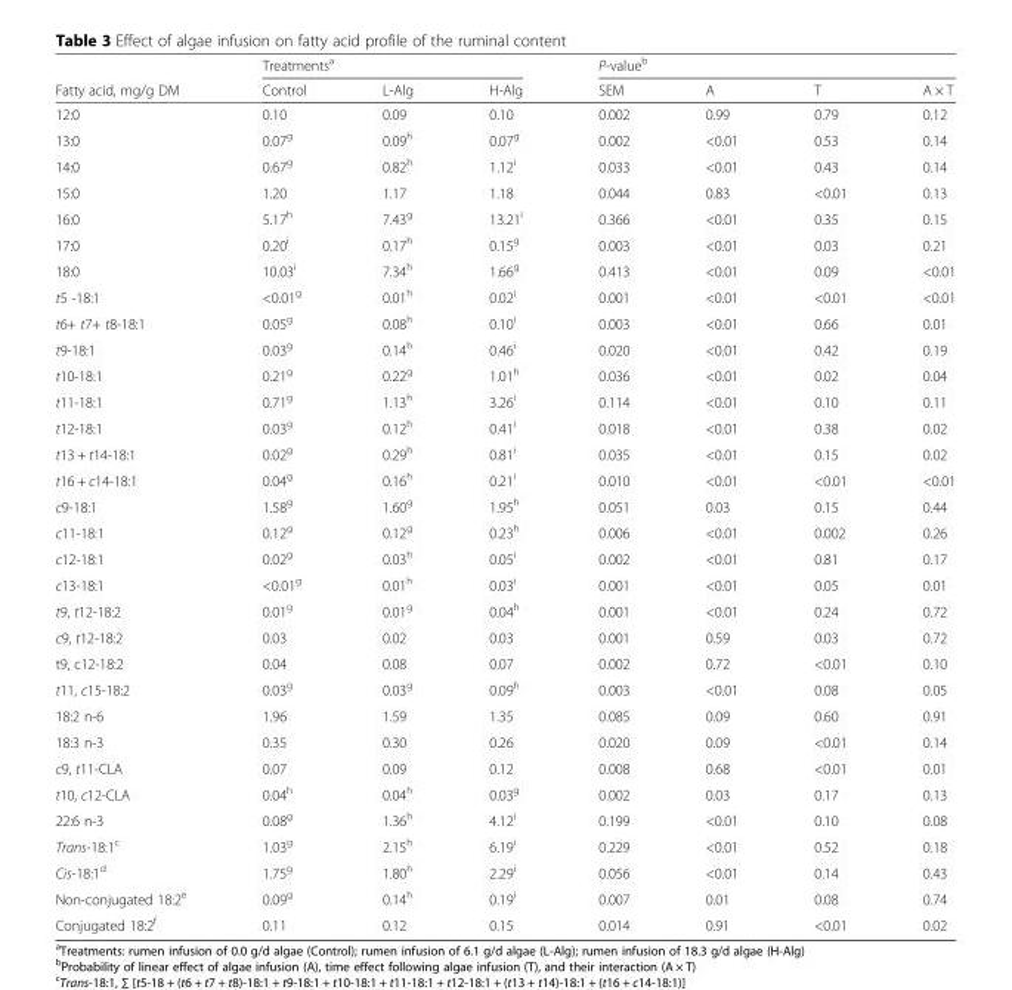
<table><thead><tr><td rowspan="2">Fatty acid, mg/g DM</td><td colspan="3">Treatments<sup>a</sup></td><td colspan="4">P-value<sup>b</sup></td></tr><tr><td>Control</td><td>L-Alg</td><td>H-Alg</td><td>SEM</td><td>A</td><td>T</td><td>A × T</td></tr></thead><tbody><tr><td>12:0</td><td>0.10</td><td>0.09</td><td>0.10</td><td>0.002</td><td>0.99</td><td>0.79</td><td>0.12</td></tr><tr><td>13:0</td><td>0.07<sup>g</sup></td><td>0.09<sup>h</sup></td><td>0.07<sup>g</sup></td><td>0.002</td><td>&lt;0.01</td><td>0.53</td><td>0.14</td></tr><tr><td>14:0</td><td>0.67<sup>g</sup></td><td>0.82<sup>h</sup></td><td>1.12<sup>i</sup></td><td>0.033</td><td>&lt;0.01</td><td>0.43</td><td>0.14</td></tr><tr><td>15:0</td><td>1.20</td><td>1.17</td><td>1.18</td><td>0.044</td><td>0.83</td><td>&lt;0.01</td><td>0.13</td></tr><tr><td>16:0</td><td>5.17<sup>h</sup></td><td>7.43<sup>g</sup></td><td>13.21<sup>i</sup></td><td>0.366</td><td>&lt;0.01</td><td>0.35</td><td>0.15</td></tr><tr><td>17:0</td><td>0.20<sup>i</sup></td><td>0.17<sup>h</sup></td><td>0.15<sup>g</sup></td><td>0.003</td><td>&lt;0.01</td><td>0.03</td><td>0.21</td></tr><tr><td>18:0</td><td>10.03<sup>i</sup></td><td>7.34<sup>h</sup></td><td>1.66<sup>g</sup></td><td>0.413</td><td>&lt;0.01</td><td>0.09</td><td>&lt;0.01</td></tr><tr><td>t5 -18:1</td><td>&lt;0.01<sup>g</sup></td><td>0.01<sup>h</sup></td><td>0.02<sup>i</sup></td><td>0.001</td><td>&lt;0.01</td><td>&lt;0.01</td><td>&lt;0.01</td></tr><tr><td>t6+ t7+ t8-18:1</td><td>0.05<sup>g</sup></td><td>0.08<sup>h</sup></td><td>0.10<sup>i</sup></td><td>0.003</td><td>&lt;0.01</td><td>0.66</td><td>0.01</td></tr><tr><td>t9-18:1</td><td>0.03<sup>g</sup></td><td>0.14<sup>h</sup></td><td>0.46<sup>i</sup></td><td>0.020</td><td>&lt;0.01</td><td>0.42</td><td>0.19</td></tr><tr><td>t10-18:1</td><td>0.21<sup>g</sup></td><td>0.22<sup>g</sup></td><td>1.01<sup>h</sup></td><td>0.036</td><td>&lt;0.01</td><td>0.02</td><td>0.04</td></tr><tr><td>t11-18:1</td><td>0.71<sup>g</sup></td><td>1.13<sup>h</sup></td><td>3.26<sup>i</sup></td><td>0.114</td><td>&lt;0.01</td><td>0.10</td><td>0.11</td></tr><tr><td>t12-18:1</td><td>0.03<sup>g</sup></td><td>0.12<sup>h</sup></td><td>0.41<sup>i</sup></td><td>0.018</td><td>&lt;0.01</td><td>0.38</td><td>0.02</td></tr><tr><td>t13 + t14-18:1</td><td>0.02<sup>g</sup></td><td>0.29<sup>h</sup></td><td>0.81<sup>i</sup></td><td>0.035</td><td>&lt;0.01</td><td>0.15</td><td>0.02</td></tr><tr><td>t16 + c14-18:1</td><td>0.04<sup>g</sup></td><td>0.16<sup>h</sup></td><td>0.21<sup>i</sup></td><td>0.010</td><td>&lt;0.01</td><td>&lt;0.01</td><td>&lt;0.01</td></tr><tr><td>c9-18:1</td><td>1.58<sup>g</sup></td><td>1.60<sup>g</sup></td><td>1.95<sup>h</sup></td><td>0.051</td><td>0.03</td><td>0.15</td><td>0.44</td></tr><tr><td>c11-18:1</td><td>0.12<sup>g</sup></td><td>0.12<sup>g</sup></td><td>0.23<sup>h</sup></td><td>0.006</td><td>&lt;0.01</td><td>0.002</td><td>0.26</td></tr><tr><td>c12-18:1</td><td>0.02<sup>g</sup></td><td>0.03<sup>h</sup></td><td>0.05<sup>i</sup></td><td>0.002</td><td>&lt;0.01</td><td>0.81</td><td>0.17</td></tr><tr><td>c13-18:1</td><td>&lt;0.01<sup>g</sup></td><td>0.01<sup>h</sup></td><td>0.03<sup>i</sup></td><td>0.001</td><td>&lt;0.01</td><td>0.05</td><td>0.01</td></tr><tr><td>t9, t12-18:2</td><td>0.01<sup>g</sup></td><td>0.01<sup>g</sup></td><td>0.04<sup>h</sup></td><td>0.001</td><td>&lt;0.01</td><td>0.24</td><td>0.72</td></tr><tr><td>c9, t12-18:2</td><td>0.03</td><td>0.02</td><td>0.03</td><td>0.001</td><td>0.59</td><td>0.03</td><td>0.72</td></tr><tr><td>t9, c12-18:2</td><td>0.04</td><td>0.08</td><td>0.07</td><td>0.002</td><td>0.72</td><td>&lt;0.01</td><td>0.10</td></tr><tr><td>t11, c15-18:2</td><td>0.03<sup>g</sup></td><td>0.03<sup>g</sup></td><td>0.09<sup>h</sup></td><td>0.003</td><td>&lt;0.01</td><td>0.08</td><td>0.05</td></tr><tr><td>18:2 n-6</td><td>1.96</td><td>1.59</td><td>1.35</td><td>0.085</td><td>0.09</td><td>0.60</td><td>0.91</td></tr><tr><td>18:3 n-3</td><td>0.35</td><td>0.30</td><td>0.26</td><td>0.020</td><td>0.09</td><td>&lt;0.01</td><td>0.14</td></tr><tr><td>c9, t11-CLA</td><td>0.07</td><td>0.09</td><td>0.12</td><td>0.008</td><td>0.68</td><td>&lt;0.01</td><td>0.01</td></tr><tr><td>t10, c12-CLA</td><td>0.04<sup>h</sup></td><td>0.04<sup>h</sup></td><td>0.03<sup>g</sup></td><td>0.002</td><td>0.03</td><td>0.17</td><td>0.13</td></tr><tr><td>22:6 n-3</td><td>0.08<sup>g</sup></td><td>1.36<sup>h</sup></td><td>4.12<sup>i</sup></td><td>0.199</td><td>&lt;0.01</td><td>0.10</td><td>0.08</td></tr><tr><td>Trans-18:1<sup>c</sup></td><td>1.03<sup>g</sup></td><td>2.15<sup>h</sup></td><td>6.19<sup>i</sup></td><td>0.229</td><td>&lt;0.01</td><td>0.52</td><td>0.18</td></tr><tr><td>Cis-18:1<sup>d</sup></td><td>1.75<sup>g</sup></td><td>1.80<sup>h</sup></td><td>2.29<sup>i</sup></td><td>0.056</td><td>&lt;0.01</td><td>0.14</td><td>0.43</td></tr><tr><td>Non-conjugated 18:2<sup>e</sup></td><td>0.09<sup>g</sup></td><td>0.14<sup>h</sup></td><td>0.19<sup>i</sup></td><td>0.007</td><td>0.01</td><td>0.08</td><td>0.74</td></tr><tr><td>Conjugated 18:2<sup>f</sup></td><td>0.11</td><td>0.12</td><td>0.15</td><td>0.014</td><td>0.91</td><td>&lt;0.01</td><td>0.02</td></tr></tbody></table>